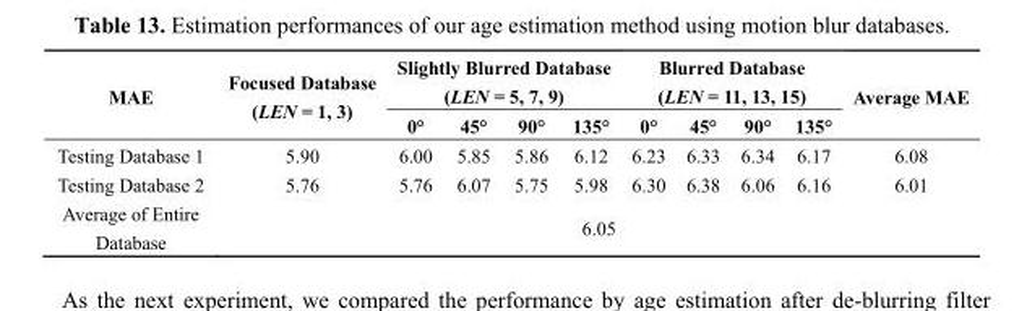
<table><thead><tr><td rowspan="2">MAE</td><td rowspan="2">Focused Database (LEN = 1, 3)</td><td colspan="4">Slightly Blurred Database (LEN = 5, 7, 9)</td><td colspan="4">Blurred Database (LEN = 11, 13, 15)</td><td rowspan="2">Average MAE</td></tr><tr><td>0°</td><td>45°</td><td>90°</td><td>135°</td><td>0°</td><td>45°</td><td>90°</td><td>135°</td></tr></thead><tbody><tr><td>Testing Database 1</td><td>5.90</td><td>6.00</td><td>5.85</td><td>5.86</td><td>6.12</td><td>6.23</td><td>6.33</td><td>6.34</td><td>6.17</td><td>6.08</td></tr><tr><td>Testing Database 2</td><td>5.76</td><td>5.76</td><td>6.07</td><td>5.75</td><td>5.98</td><td>6.30</td><td>6.38</td><td>6.06</td><td>6.16</td><td>6.01</td></tr><tr><td>Average of Entire Database</td><td colspan="10">6.05</td></tr></tbody></table>